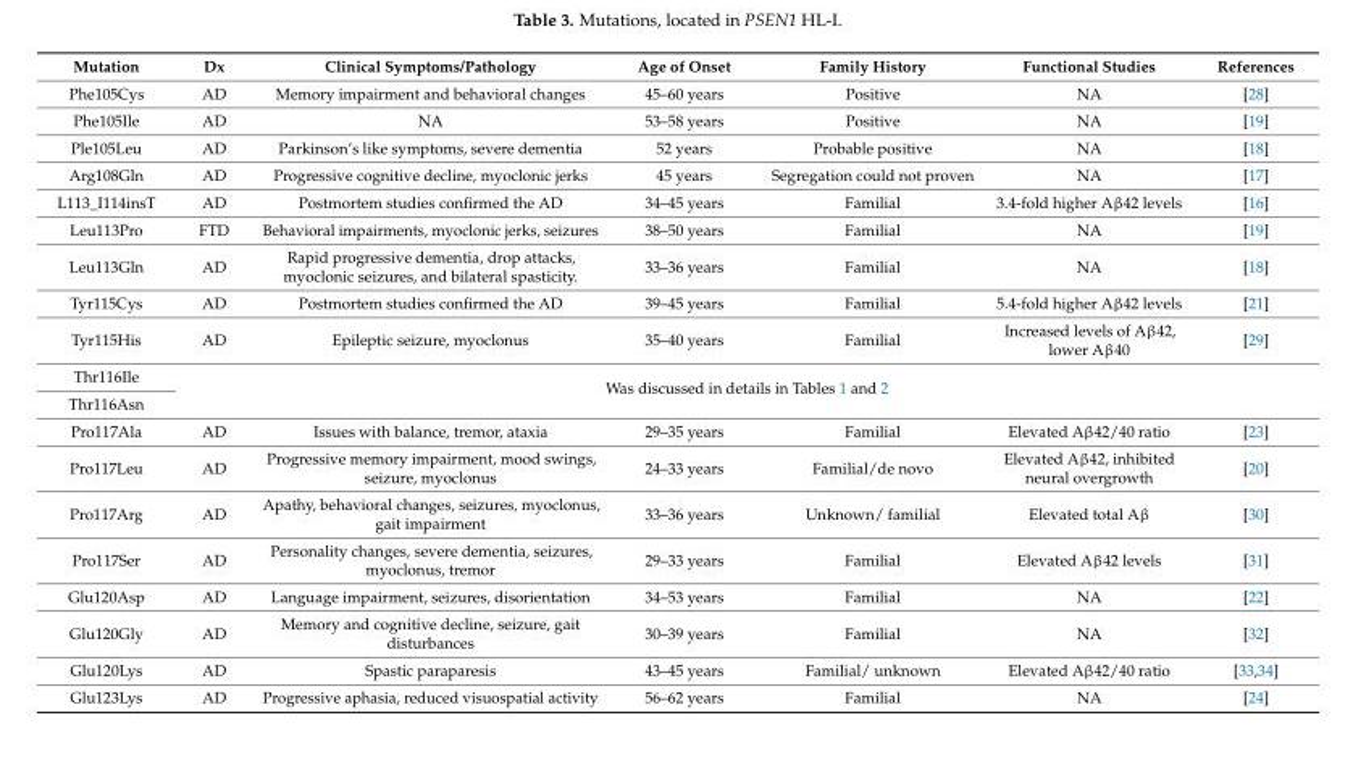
<table><thead><tr><td>Mutation</td><td>Dx</td><td>Clinical Symptoms/Pathology</td><td>Age of Onset</td><td>Family History</td><td>Functional Studies</td><td>References</td></tr></thead><tbody><tr><td>Phe105Cys</td><td>AD</td><td>Memory impairment and behavioral changes</td><td>45–60 years</td><td>Positive</td><td>NA</td><td>[28]</td></tr><tr><td>Phe105Ile</td><td>AD</td><td>NA</td><td>53–58 years</td><td>Positive</td><td>NA</td><td>[19]</td></tr><tr><td>Ple105Leu</td><td>AD</td><td>Parkinson’s like symptoms, severe dementia</td><td>52 years</td><td>Probable positive</td><td>NA</td><td>[18]</td></tr><tr><td>Arg108Gln</td><td>AD</td><td>Progressive cognitive decline, myoclonic jerks</td><td>45 years</td><td>Segregation could not proven</td><td>NA</td><td>[17]</td></tr><tr><td>L113_I114insT</td><td>AD</td><td>Postmortem studies confirmed the AD</td><td>34–45 years</td><td>Familial</td><td>3.4-fold higher Aβ42 levels</td><td>[16]</td></tr><tr><td>Leu113Pro</td><td>FTD</td><td>Behavioral impairments, myoclonic jerks, seizures</td><td>38–50 years</td><td>Familial</td><td>NA</td><td>[19]</td></tr><tr><td>Leu113Gln</td><td>AD</td><td>Rapid progressive dementia, drop attacks, myoclonic seizures, and bilateral spasticity.</td><td>33–36 years</td><td>Familial</td><td>NA</td><td>[18]</td></tr><tr><td>Tyr115Cys</td><td>AD</td><td>Postmortem studies confirmed the AD</td><td>39–45 years</td><td>Familial</td><td>5.4-fold higher Aβ42 levels</td><td>[21]</td></tr><tr><td>Tyr115His</td><td>AD</td><td>Epileptic seizure, myoclonus</td><td>35–40 years</td><td>Familial</td><td>Increased levels of Aβ42, lower Aβ40</td><td>[29]</td></tr><tr><td>Thr116Ile</td><td rowspan="2" colspan="6">Was discussed in details in Tables 1 and 2</td></tr><tr><td>Thr116Asn</td></tr><tr><td>Pro117Ala</td><td>AD</td><td>Issues with balance, tremor, ataxia</td><td>29–35 years</td><td>Familial</td><td>Elevated Aβ42/40 ratio</td><td>[23]</td></tr><tr><td>Pro117Leu</td><td>AD</td><td>Progressive memory impairment, mood swings, seizure, myoclonus</td><td>24–33 years</td><td>Familial/de novo</td><td>Elevated Aβ42, inhibited neural overgrowth</td><td>[20]</td></tr><tr><td>Pro117Arg</td><td>AD</td><td>Apathy, behavioral changes, seizures, myoclonus, gait impairment</td><td>33–36 years</td><td>Unknown/ familial</td><td>Elevated total Aβ</td><td>[30]</td></tr><tr><td>Pro117Ser</td><td>AD</td><td>Personality changes, severe dementia, seizures, myoclonus, tremor</td><td>29–33 years</td><td>Familial</td><td>Elevated Aβ42 levels</td><td>[31]</td></tr><tr><td>Glu120Asp</td><td>AD</td><td>Language impairment, seizures, disorientation</td><td>34–53 years</td><td>Familial</td><td>NA</td><td>[22]</td></tr><tr><td>Glu120Gly</td><td>AD</td><td>Memory and cognitive decline, seizure, gait disturbances</td><td>30–39 years</td><td>Familial</td><td>NA</td><td>[32]</td></tr><tr><td>Glu120Lys</td><td>AD</td><td>Spastic paraparesis</td><td>43–45 years</td><td>Familial/ unknown</td><td>Elevated Aβ42/40 ratio</td><td>[33,34]</td></tr><tr><td>Glu123Lys</td><td>AD</td><td>Progressive aphasia, reduced visuospatial activity</td><td>56–62 years</td><td>Familial</td><td>NA</td><td>[24]</td></tr></tbody></table>